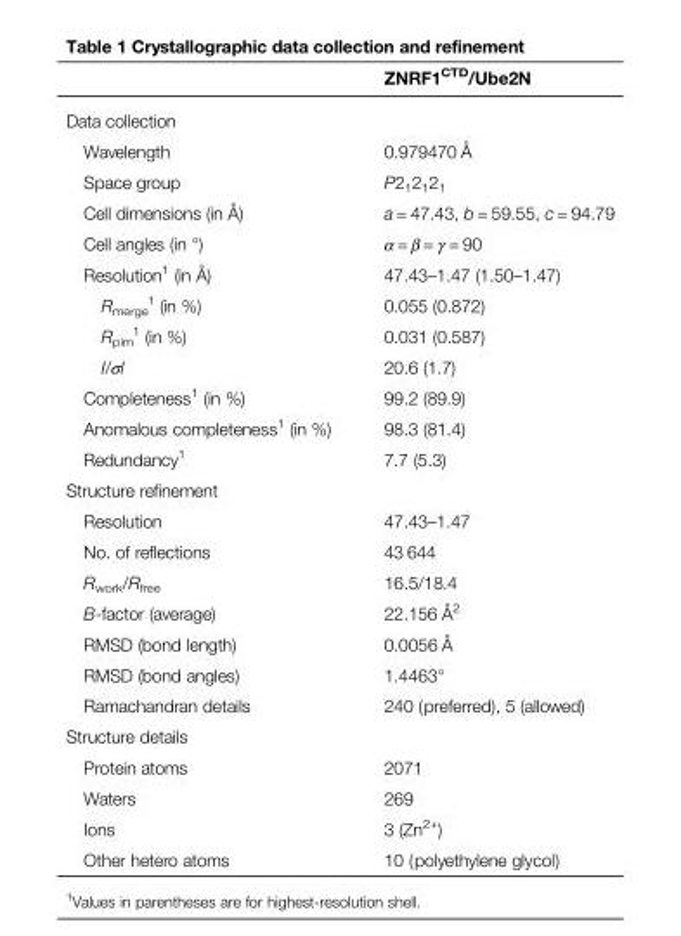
<table><thead><tr><td></td><td>ZNRF1<sup>CTD</sup>/Ube2N</td></tr></thead><tbody><tr><td colspan="2">Data collection</td></tr><tr><td>Wavelength</td><td>0.979470 Å</td></tr><tr><td>Space group</td><td>P2<sub>1</sub>2<sub>1</sub>2<sub>1</sub></td></tr><tr><td>Cell dimensions (in Å)</td><td>a = 47.43, b = 59.55, c = 94.79</td></tr><tr><td>Cell angles (in °)</td><td>α = β = γ = 90</td></tr><tr><td>Resolution<sup>1</sup> (in Å)</td><td>47.43–1.47 (1.50–1.47)</td></tr><tr><td>R<sub>merge</sub> <sup>1</sup> (in %)</td><td>0.055 (0.872)</td></tr><tr><td>R<sub>pim</sub> <sup>1</sup> (in %)</td><td>0.031 (0.587)</td></tr><tr><td>I/σI</td><td>20.6 (1.7)</td></tr><tr><td>Completeness<sup>1</sup> (in %)</td><td>99.2 (89.9)</td></tr><tr><td>Anomalous completeness<sup>1</sup> (in %)</td><td>98.3 (81.4)</td></tr><tr><td>Redundancy<sup>1</sup></td><td>7.7 (5.3)</td></tr><tr><td colspan="2">Structure refinement</td></tr><tr><td>Resolution</td><td>47.43–1.47</td></tr><tr><td>No. of reflections</td><td>43 644</td></tr><tr><td>R<sub>work</sub>/R<sub>free</sub></td><td>16.5/18.4</td></tr><tr><td>B-factor (average)</td><td>22.156 Å<sup>2</sup></td></tr><tr><td>RMSD (bond length)</td><td>0.0056 Å</td></tr><tr><td>RMSD (bond angles)</td><td>1.4463°</td></tr><tr><td>Ramachandran details</td><td>240 (preferred), 5 (allowed)</td></tr><tr><td colspan="2">Structure details</td></tr><tr><td>Protein atoms</td><td>2071</td></tr><tr><td>Waters</td><td>269</td></tr><tr><td>Ions</td><td>3 (Zn<sup>2+</sup>)</td></tr><tr><td>Other hetero atoms</td><td>10 (polyethylene glycol)</td></tr></tbody></table>